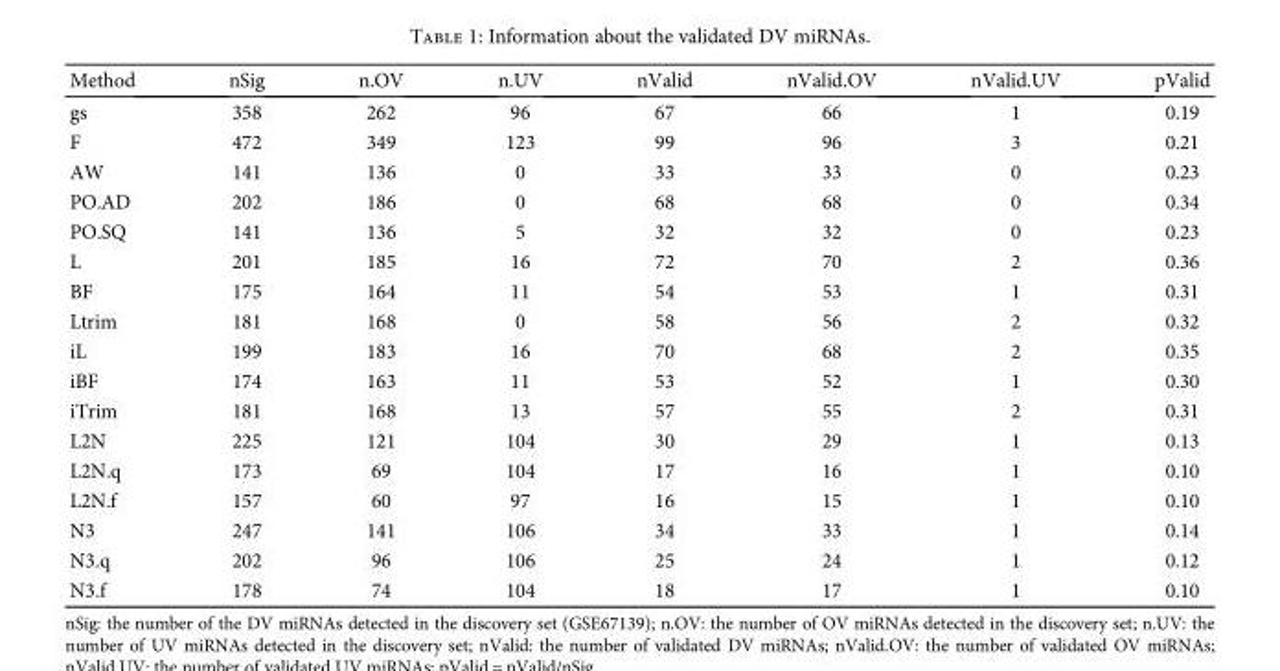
<table><thead><tr><td>Method</td><td>nSig</td><td>n.OV</td><td>n.UV</td><td>nValid</td><td>nValid.OV</td><td>nValid.UV</td><td>pValid</td></tr></thead><tbody><tr><td>gs</td><td>358</td><td>262</td><td>96</td><td>67</td><td>66</td><td>1</td><td>0.19</td></tr><tr><td>F</td><td>472</td><td>349</td><td>123</td><td>99</td><td>96</td><td>3</td><td>0.21</td></tr><tr><td>AW</td><td>141</td><td>136</td><td>0</td><td>33</td><td>33</td><td>0</td><td>0.23</td></tr><tr><td>PO.AD</td><td>202</td><td>186</td><td>0</td><td>68</td><td>68</td><td>0</td><td>0.34</td></tr><tr><td>PO.SQ</td><td>141</td><td>136</td><td>5</td><td>32</td><td>32</td><td>0</td><td>0.23</td></tr><tr><td>L</td><td>201</td><td>185</td><td>16</td><td>72</td><td>70</td><td>2</td><td>0.36</td></tr><tr><td>BF</td><td>175</td><td>164</td><td>11</td><td>54</td><td>53</td><td>1</td><td>0.31</td></tr><tr><td>Ltrim</td><td>181</td><td>168</td><td>0</td><td>58</td><td>56</td><td>2</td><td>0.32</td></tr><tr><td>iL</td><td>199</td><td>183</td><td>16</td><td>70</td><td>68</td><td>2</td><td>0.35</td></tr><tr><td>iBF</td><td>174</td><td>163</td><td>11</td><td>53</td><td>52</td><td>1</td><td>0.30</td></tr><tr><td>iTrim</td><td>181</td><td>168</td><td>13</td><td>57</td><td>55</td><td>2</td><td>0.31</td></tr><tr><td>L2N</td><td>225</td><td>121</td><td>104</td><td>30</td><td>29</td><td>1</td><td>0.13</td></tr><tr><td>L2N.q</td><td>173</td><td>69</td><td>104</td><td>17</td><td>16</td><td>1</td><td>0.10</td></tr><tr><td>L2N.f</td><td>157</td><td>60</td><td>97</td><td>16</td><td>15</td><td>1</td><td>0.10</td></tr><tr><td>N3</td><td>247</td><td>141</td><td>106</td><td>34</td><td>33</td><td>1</td><td>0.14</td></tr><tr><td>N3.q</td><td>202</td><td>96</td><td>106</td><td>25</td><td>24</td><td>1</td><td>0.12</td></tr><tr><td>N3.f</td><td>178</td><td>74</td><td>104</td><td>18</td><td>17</td><td>1</td><td>0.10</td></tr></tbody></table>